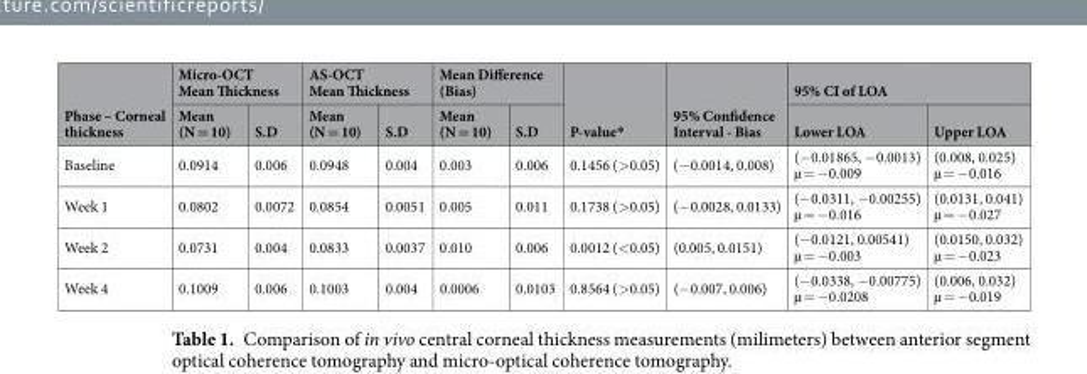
<table><thead><tr><td rowspan="2">Phase – Corneal thickness</td><td colspan="2">Micro-OCT Mean Thickness</td><td colspan="2">AS-OCT Mean Thickness</td><td colspan="2">Mean Difference (Bias)</td><td rowspan="2">P-value*</td><td rowspan="2">95% Confidence Interval - Bias</td><td colspan="2">95% CI of LOA</td></tr><tr><td>Mean (N = 10)</td><td>S.D</td><td>Mean (N = 10)</td><td>S.D</td><td>Mean (N = 10)</td><td>S.D</td><td>Lower LOA</td><td>Upper LOA</td></tr></thead><tbody><tr><td>Baseline</td><td>0.0914</td><td>0.006</td><td>0.0948</td><td>0.004</td><td>0.003</td><td>0.006</td><td>0.1456 (&gt;0.05)</td><td>(−0.0014, 0.008)</td><td>(−0.01865, −0.0013) µ = −0.009</td><td>(0.008, 0.025) µ = −0.016</td></tr><tr><td>Week 1</td><td>0.0802</td><td>0.0072</td><td>0.0854</td><td>0.0051</td><td>0.005</td><td>0.011</td><td>0.1738 (&gt;0.05)</td><td>(−0.0028, 0.0133)</td><td>(−0.0311, −0.00255) µ = −0.016</td><td>(0.0131, 0.041) µ = −0.027</td></tr><tr><td>Week 2</td><td>0.0731</td><td>0.004</td><td>0.0833</td><td>0.0037</td><td>0.010</td><td>0.006</td><td>0.0012 (&lt;0.05)</td><td>(0.005, 0.0151)</td><td>(−0.0121, 0.00541) µ = −0.003</td><td>(0.0150, 0.032) µ = −0.023</td></tr><tr><td>Week 4</td><td>0.1009</td><td>0.006</td><td>0.1003</td><td>0.004</td><td>0.0006</td><td>0.0103</td><td>0.8564 (&gt;0.05)</td><td>(−0.007, 0.006)</td><td>(−0.0338, −0.00775) µ = −0.0208</td><td>(0.006, 0.032) µ = −0.019</td></tr></tbody></table>